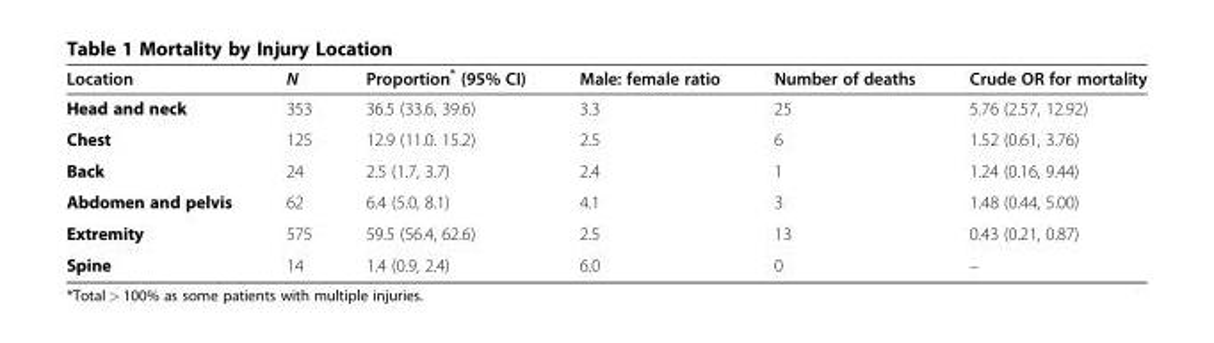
<table><thead><tr><td>Location</td><td>N</td><td>Proportion* (95% CI)</td><td>Male: female ratio</td><td>Number of deaths</td><td>Crude OR for mortality</td></tr></thead><tbody><tr><td>Head and neck</td><td>353</td><td>36.5 (33.6, 39.6)</td><td>3.3</td><td>25</td><td>5.76 (2.57, 12.92)</td></tr><tr><td>Chest</td><td>125</td><td>12.9 (11.0. 15.2)</td><td>2.5</td><td>6</td><td>1.52 (0.61, 3.76)</td></tr><tr><td>Back</td><td>24</td><td>2.5 (1.7, 3.7)</td><td>2.4</td><td>1</td><td>1.24 (0.16, 9.44)</td></tr><tr><td>Abdomen and pelvis</td><td>62</td><td>6.4 (5.0, 8.1)</td><td>4.1</td><td>3</td><td>1.48 (0.44, 5.00)</td></tr><tr><td>Extremity</td><td>575</td><td>59.5 (56.4, 62.6)</td><td>2.5</td><td>13</td><td>0.43 (0.21, 0.87)</td></tr><tr><td>Spine</td><td>14</td><td>1.4 (0.9, 2.4)</td><td>6.0</td><td>0</td><td>–</td></tr></tbody></table>